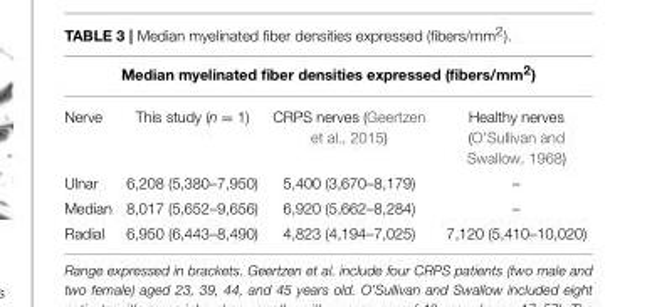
<table><thead><tr><td colspan="4">Median myelinated fiber densities expressed (fibers/mm<sup>2</sup>)</td></tr><tr><td>Nerve</td><td>This study (n = 1)</td><td>CRPS nerves (Geertzen et al., 2015)</td><td>Healthy nerves (O’Sullivan and Swallow, 1968)</td></tr></thead><tbody><tr><td>Ulnar</td><td>6,208 (5,380–7,950)</td><td>5,400 (3,670–8,179)</td><td>–</td></tr><tr><td>Median</td><td>8,017 (5,652–9,656)</td><td>6,920 (5,662–8,284)</td><td>–</td></tr><tr><td>Radial</td><td>6,950 (6,443–8,490)</td><td>4,823 (4,194–7,025)</td><td>7,120 (5,410–10,020)</td></tr></tbody></table>